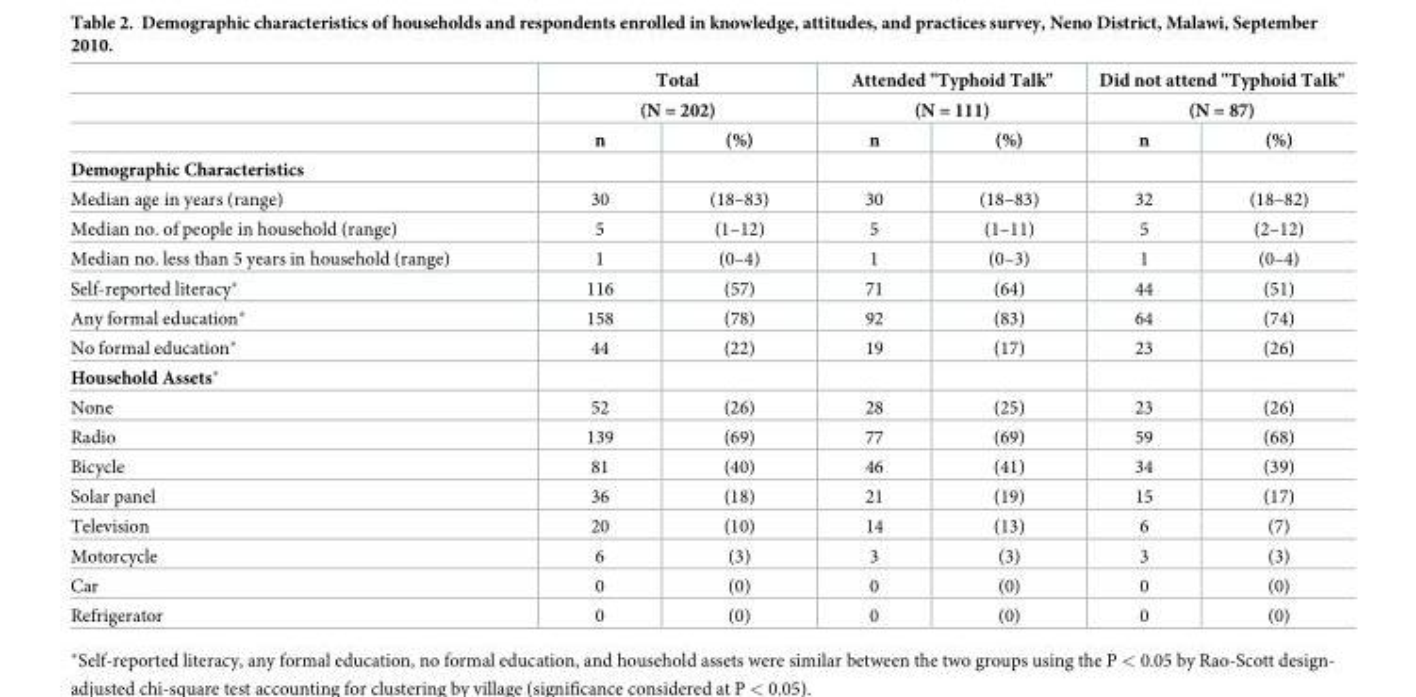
<table><thead><tr><td rowspan="3"></td><td rowspan="2" colspan="2">Total (N = 202)</td><td rowspan="2" colspan="2">Attended &quot;Typhoid Talk&quot; (N = 111)</td><td rowspan="2" colspan="2">Did not attend &quot;Typhoid Talk&quot; (N = 87)</td></tr><tr></tr><tr><td>n</td><td>(%)</td><td>n</td><td>(%)</td><td>n</td><td>(%)</td></tr></thead><tbody><tr><td colspan="7">Demographic Characteristics</td></tr><tr><td>Median age in years (range)</td><td>30</td><td>(18–83)</td><td>30</td><td>(18–83)</td><td>32</td><td>(18–82)</td></tr><tr><td>Median no. of people in household (range)</td><td>5</td><td>(1–12)</td><td>5</td><td>(1–11)</td><td>5</td><td>(2–12)</td></tr><tr><td>Median no. less than 5 years in household (range)</td><td>1</td><td>(0–4)</td><td>1</td><td>(0–3)</td><td>1</td><td>(0–4)</td></tr><tr><td>Self-reported literacy*</td><td>116</td><td>(57)</td><td>71</td><td>(64)</td><td>44</td><td>(51)</td></tr><tr><td>Any formal education*</td><td>158</td><td>(78)</td><td>92</td><td>(83)</td><td>64</td><td>(74)</td></tr><tr><td>No formal education*</td><td>44</td><td>(22)</td><td>19</td><td>(17)</td><td>23</td><td>(26)</td></tr><tr><td colspan="7">Household Assets*</td></tr><tr><td>None</td><td>52</td><td>(26)</td><td>28</td><td>(25)</td><td>23</td><td>(26)</td></tr><tr><td>Radio</td><td>139</td><td>(69)</td><td>77</td><td>(69)</td><td>59</td><td>(68)</td></tr><tr><td>Bicycle</td><td>81</td><td>(40)</td><td>46</td><td>(41)</td><td>34</td><td>(39)</td></tr><tr><td>Solar panel</td><td>36</td><td>(18)</td><td>21</td><td>(19)</td><td>15</td><td>(17)</td></tr><tr><td>Television</td><td>20</td><td>(10)</td><td>14</td><td>(13)</td><td>6</td><td>(7)</td></tr><tr><td>Motorcycle</td><td>6</td><td>(3)</td><td>3</td><td>(3)</td><td>3</td><td>(3)</td></tr><tr><td>Car</td><td>0</td><td>(0)</td><td>0</td><td>(0)</td><td>0</td><td>(0)</td></tr><tr><td>Refrigerator</td><td>0</td><td>(0)</td><td>0</td><td>(0)</td><td>0</td><td>(0)</td></tr></tbody></table>